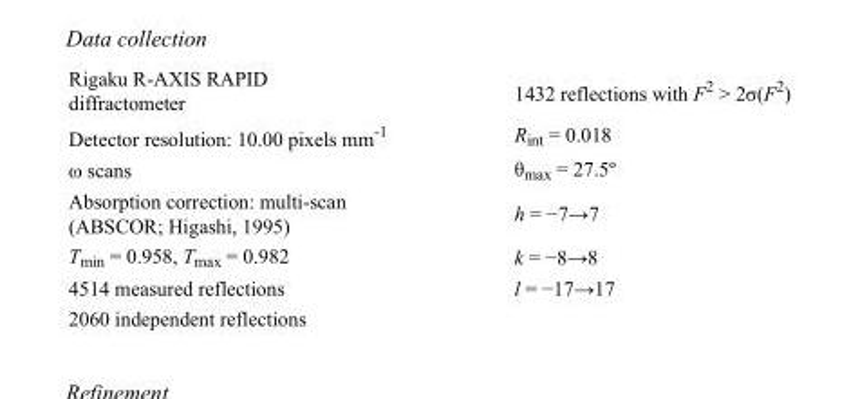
<table><tbody><tr><td>Rigaku R-AXIS RAPID diffractometer</td><td>1432 reflections with F<sup>2</sup> &gt; 2σ(F<sup>2</sup>)</td></tr><tr><td>Detector resolution: 10.00 pixels mm<sup>-1</sup></td><td>R<sub>int</sub> = 0.018</td></tr><tr><td>ω scans</td><td>θ<sub>max</sub> = 27.5º</td></tr><tr><td>Absorption correction: multi-scan (ABSCOR; Higashi, 1995)</td><td>h = −7→7</td></tr><tr><td>T<sub>min</sub> = 0.958, T<sub>max</sub> = 0.982</td><td>k = −8→8</td></tr><tr><td>4514 measured reflections</td><td>l = −17→17</td></tr><tr><td>2060 independent reflections</td><td></td></tr></tbody></table>